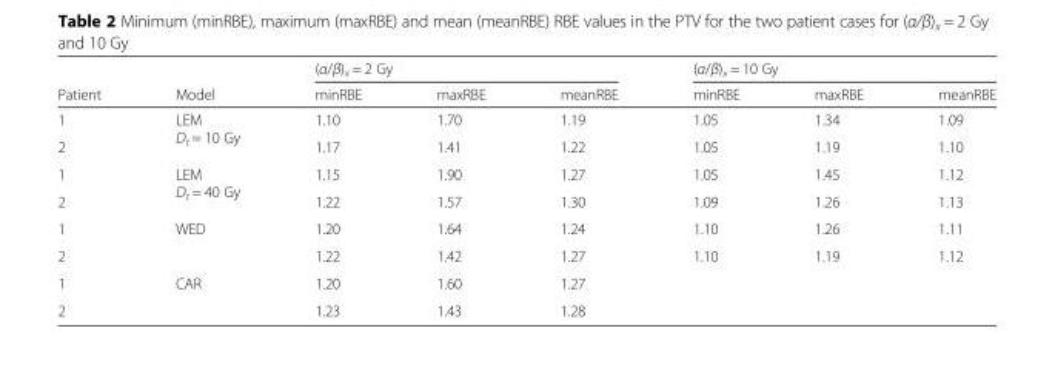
<table><thead><tr><td rowspan="2">Patient</td><td rowspan="2">Model</td><td colspan="3">(α/β)<sub>x</sub> = 2 Gy</td><td colspan="3">(α/β)<sub>x</sub> = 10 Gy</td></tr><tr><td>minRBE</td><td>maxRBE</td><td>meanRBE</td><td>minRBE</td><td>maxRBE</td><td>meanRBE</td></tr></thead><tbody><tr><td>1</td><td rowspan="2">LEM D<sub>t</sub> = 10 Gy</td><td>1.10</td><td>1.70</td><td>1.19</td><td>1.05</td><td>1.34</td><td>1.09</td></tr><tr><td>2</td><td>1.17</td><td>1.41</td><td>1.22</td><td>1.05</td><td>1.19</td><td>1.10</td></tr><tr><td>1</td><td rowspan="2">LEM D<sub>t</sub> = 40 Gy</td><td>1.15</td><td>1.90</td><td>1.27</td><td>1.05</td><td>1.45</td><td>1.12</td></tr><tr><td>2</td><td>1.22</td><td>1.57</td><td>1.30</td><td>1.09</td><td>1.26</td><td>1.13</td></tr><tr><td>1</td><td rowspan="2">WED</td><td>1.20</td><td>1.64</td><td>1.24</td><td>1.10</td><td>1.26</td><td>1.11</td></tr><tr><td>2</td><td>1.22</td><td>1.42</td><td>1.27</td><td>1.10</td><td>1.19</td><td>1.12</td></tr><tr><td>1</td><td rowspan="2">CAR</td><td>1.20</td><td>1.60</td><td>1.27</td><td rowspan="2"></td><td rowspan="2"></td><td rowspan="2"></td></tr><tr><td>2</td><td>1.23</td><td>1.43</td><td>1.28</td></tr></tbody></table>